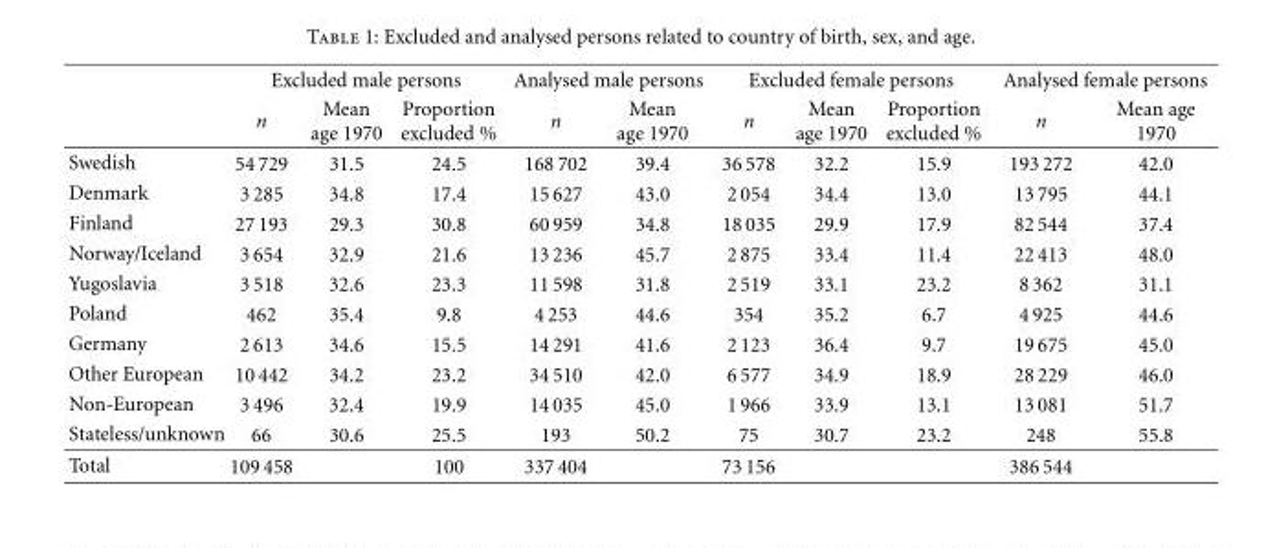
<table><thead><tr><td rowspan="2"></td><td colspan="3">Excluded male persons</td><td colspan="2">Analysed male persons</td><td colspan="3">Excluded female persons</td><td colspan="2">Analysed female persons</td></tr><tr><td>n</td><td>Mean age 1970</td><td>Proportion excluded %</td><td>n</td><td>Mean age 1970</td><td>n</td><td>Mean age 1970</td><td>Proportion excluded %</td><td>n</td><td>Mean age 1970</td></tr></thead><tbody><tr><td>Swedish</td><td>54 729</td><td>31.5</td><td>24.5</td><td>168 702</td><td>39.4</td><td>36 578</td><td>32.2</td><td>15.9</td><td>193 272</td><td>42.0</td></tr><tr><td>Denmark</td><td>3 285</td><td>34.8</td><td>17.4</td><td>15 627</td><td>43.0</td><td>2 054</td><td>34.4</td><td>13.0</td><td>13 795</td><td>44.1</td></tr><tr><td>Finland</td><td>27 193</td><td>29.3</td><td>30.8</td><td>60 959</td><td>34.8</td><td>18 035</td><td>29.9</td><td>17.9</td><td>82 544</td><td>37.4</td></tr><tr><td>Norway/Iceland</td><td>3 654</td><td>32.9</td><td>21.6</td><td>13 236</td><td>45.7</td><td>2 875</td><td>33.4</td><td>11.4</td><td>22 413</td><td>48.0</td></tr><tr><td>Yugoslavia</td><td>3 518</td><td>32.6</td><td>23.3</td><td>11 598</td><td>31.8</td><td>2 519</td><td>33.1</td><td>23.2</td><td>8 362</td><td>31.1</td></tr><tr><td>Poland</td><td>462</td><td>35.4</td><td>9.8</td><td>4 253</td><td>44.6</td><td>354</td><td>35.2</td><td>6.7</td><td>4 925</td><td>44.6</td></tr><tr><td>Germany</td><td>2 613</td><td>34.6</td><td>15.5</td><td>14 291</td><td>41.6</td><td>2 123</td><td>36.4</td><td>9.7</td><td>19 675</td><td>45.0</td></tr><tr><td>Other European</td><td>10 442</td><td>34.2</td><td>23.2</td><td>34 510</td><td>42.0</td><td>6 577</td><td>34.9</td><td>18.9</td><td>28 229</td><td>46.0</td></tr><tr><td>Non-European</td><td>3 496</td><td>32.4</td><td>19.9</td><td>14 035</td><td>45.0</td><td>1 966</td><td>33.9</td><td>13.1</td><td>13 081</td><td>51.7</td></tr><tr><td>Stateless/unknown</td><td>66</td><td>30.6</td><td>25.5</td><td>193</td><td>50.2</td><td>75</td><td>30.7</td><td>23.2</td><td>248</td><td>55.8</td></tr><tr><td>Total</td><td>109 458</td><td></td><td>100</td><td>337 404</td><td></td><td>73 156</td><td></td><td></td><td>386 544</td><td></td></tr></tbody></table>